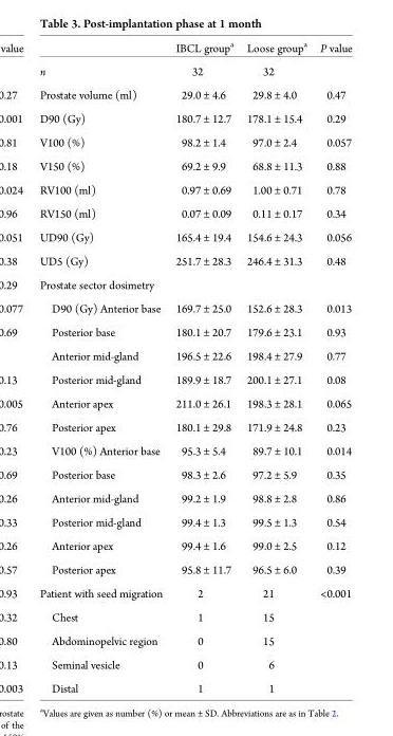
<table><thead><tr><td></td><td>IBCL group<sup>a</sup></td><td>Loose group<sup>a</sup></td><td>P value</td></tr></thead><tbody><tr><td>n</td><td>32</td><td>32</td><td></td></tr><tr><td>Prostate volume (ml)</td><td>29.0 ± 4.6</td><td>29.8 ± 4.0</td><td>0.47</td></tr><tr><td>D90 (Gy)</td><td>180.7 ± 12.7</td><td>178.1 ± 15.4</td><td>0.29</td></tr><tr><td>V100 (%)</td><td>98.2 ± 1.4</td><td>97.0 ± 2.4</td><td>0.057</td></tr><tr><td>V150 (%)</td><td>69.2 ± 9.9</td><td>68.8 ± 11.3</td><td>0.88</td></tr><tr><td>RV100 (ml)</td><td>0.97 ± 0.69</td><td>1.00 ± 0.71</td><td>0.78</td></tr><tr><td>RV150 (ml)</td><td>0.07 ± 0.09</td><td>0.11 ± 0.17</td><td>0.34</td></tr><tr><td>UD90 (Gy)</td><td>165.4 ± 19.4</td><td>154.6 ± 24.3</td><td>0.056</td></tr><tr><td>UD5 (Gy)</td><td>251.7 ± 28.3</td><td>246.4 ± 31.3</td><td>0.48</td></tr><tr><td colspan="4">Prostate sector dosimetry</td></tr><tr><td>D90 (Gy) Anterior base</td><td>169.7 ± 25.0</td><td>152.6 ± 28.3</td><td>0.013</td></tr><tr><td>Posterior base</td><td>180.1 ± 20.7</td><td>179.6 ± 23.1</td><td>0.93</td></tr><tr><td>Anterior mid-gland</td><td>196.5 ± 22.6</td><td>198.4 ± 27.9</td><td>0.77</td></tr><tr><td>Posterior mid-gland</td><td>189.9 ± 18.7</td><td>200.1 ± 27.1</td><td>0.08</td></tr><tr><td>Anterior apex</td><td>211.0 ± 26.1</td><td>198.3 ± 28.1</td><td>0.065</td></tr><tr><td>Posterior apex</td><td>180.1 ± 29.8</td><td>171.9 ± 24.8</td><td>0.23</td></tr><tr><td>V100 (%) Anterior base</td><td>95.3 ± 5.4</td><td>89.7 ± 10.1</td><td>0.014</td></tr><tr><td>Posterior base</td><td>98.3 ± 2.6</td><td>97.2 ± 5.9</td><td>0.35</td></tr><tr><td>Anterior mid-gland</td><td>99.2 ± 1.9</td><td>98.8 ± 2.8</td><td>0.86</td></tr><tr><td>Posterior mid-gland</td><td>99.4 ± 1.3</td><td>99.5 ± 1.3</td><td>0.54</td></tr><tr><td>Anterior apex</td><td>99.4 ± 1.6</td><td>99.0 ± 2.5</td><td>0.12</td></tr><tr><td>Posterior apex</td><td>95.8 ± 11.7</td><td>96.5 ± 6.0</td><td>0.39</td></tr><tr><td>Patient with seed migration</td><td>2</td><td>21</td><td>&lt;0.001</td></tr><tr><td>Chest</td><td>1</td><td>15</td><td></td></tr><tr><td>Abdominopelvic region</td><td>0</td><td>15</td><td></td></tr><tr><td>Seminal vesicle</td><td>0</td><td>6</td><td></td></tr><tr><td>Distal</td><td>1</td><td>1</td><td></td></tr></tbody></table>